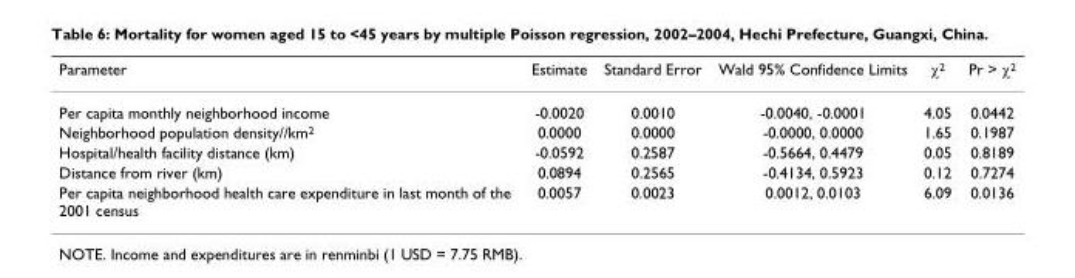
<table><thead><tr><td>Parameter</td><td>Estimate</td><td>Standard Error</td><td>Wald 95% Confidence Limits</td><td>χ<sup>2</sup></td><td>Pr &gt; χ<sup>2</sup></td></tr></thead><tbody><tr><td>Per capita monthly neighborhood income</td><td>-0.0020</td><td>0.0010</td><td>-0.0040, -0.0001</td><td>4.05</td><td>0.0442</td></tr><tr><td>Neighborhood population density//km<sup>2</sup></td><td>0.0000</td><td>0.0000</td><td>-0.0000, 0.0000</td><td>1.65</td><td>0.1987</td></tr><tr><td>Hospital/health facility distance (km)</td><td>-0.0592</td><td>0.2587</td><td>-0.5664, 0.4479</td><td>0.05</td><td>0.8189</td></tr><tr><td>Distance from river (km)</td><td>0.0894</td><td>0.2565</td><td>-0.4134, 0.5923</td><td>0.12</td><td>0.7274</td></tr><tr><td>Per capita neighborhood health care expenditure in last month of the 2001 census</td><td>0.0057</td><td>0.0023</td><td>0.0012, 0.0103</td><td>6.09</td><td>0.0136</td></tr></tbody></table>